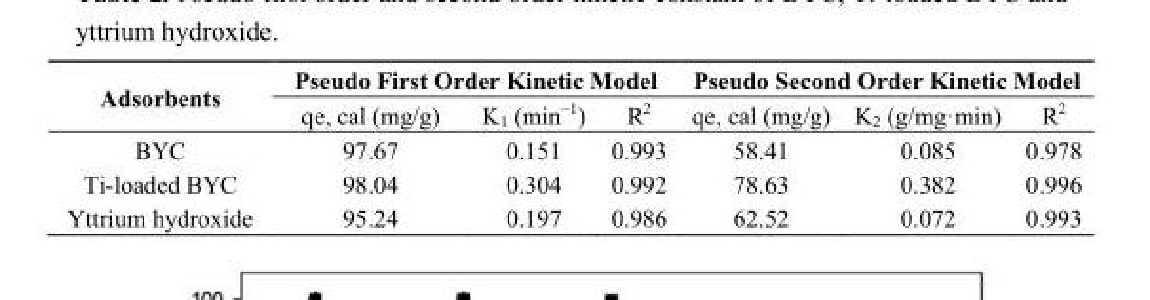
<table><thead><tr><td rowspan="2">Adsorbents</td><td colspan="3">Pseudo First Order Kinetic Model</td><td colspan="3">Pseudo Second Order Kinetic Model</td></tr><tr><td>qe, cal (mg/g)</td><td>K<sub>1</sub> (min<sup>−1</sup>)</td><td>R<sup>2</sup></td><td>qe, cal (mg/g)</td><td>K<sub>2</sub> (g/mg·min)</td><td>R<sup>2</sup></td></tr></thead><tbody><tr><td>BYC</td><td>97.67</td><td>0.151</td><td>0.993</td><td>58.41</td><td>0.085</td><td>0.978</td></tr><tr><td>Ti-loaded BYC</td><td>98.04</td><td>0.304</td><td>0.992</td><td>78.63</td><td>0.382</td><td>0.996</td></tr><tr><td>Yttrium hydroxide</td><td>95.24</td><td>0.197</td><td>0.986</td><td>62.52</td><td>0.072</td><td>0.993</td></tr></tbody></table>